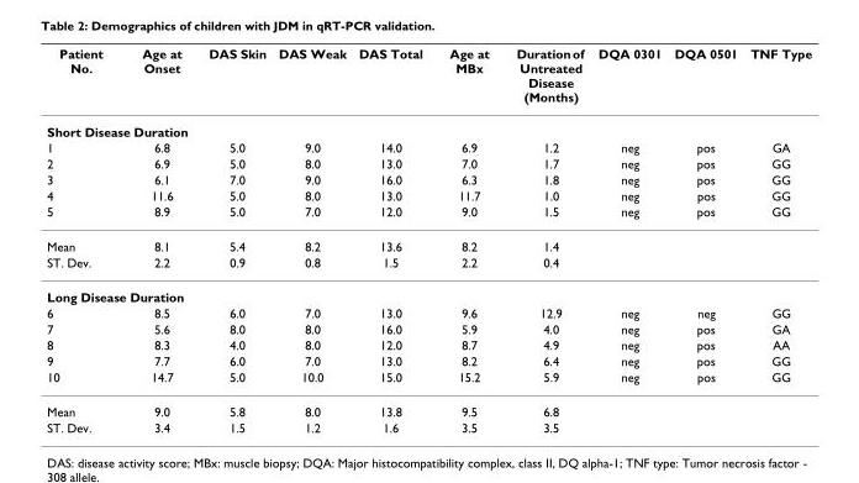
<table><thead><tr><td>Patient No.</td><td>Age at Onset</td><td>DAS Skin</td><td>DAS Weak</td><td>DAS Total</td><td>Age at MBx</td><td>Duration of Untreated Disease (Months)</td><td>DQA 0301</td><td>DQA 0501</td><td>TNF Type</td></tr></thead><tbody><tr><td colspan="10">Short Disease Duration</td></tr><tr><td>1</td><td>6.8</td><td>5.0</td><td>9.0</td><td>14.0</td><td>6.9</td><td>1.2</td><td>neg</td><td>pos</td><td>GA</td></tr><tr><td>2</td><td>6.9</td><td>5.0</td><td>8.0</td><td>13.0</td><td>7.0</td><td>1.7</td><td>neg</td><td>pos</td><td>GG</td></tr><tr><td>3</td><td>6.1</td><td>7.0</td><td>9.0</td><td>16.0</td><td>6.3</td><td>1.8</td><td>neg</td><td>pos</td><td>GG</td></tr><tr><td>4</td><td>11.6</td><td>5.0</td><td>8.0</td><td>13.0</td><td>11.7</td><td>1.0</td><td>neg</td><td>pos</td><td>GG</td></tr><tr><td>5</td><td>8.9</td><td>5.0</td><td>7.0</td><td>12.0</td><td>9.0</td><td>1.5</td><td>neg</td><td>pos</td><td>GG</td></tr><tr><td>Mean</td><td>8.1</td><td>5.4</td><td>8.2</td><td>13.6</td><td>8.2</td><td>1.4</td><td></td><td></td><td></td></tr><tr><td>ST. Dev.</td><td>2.2</td><td>0.9</td><td>0.8</td><td>1.5</td><td>2.2</td><td>0.4</td><td></td><td></td><td></td></tr><tr><td colspan="10">Long Disease Duration</td></tr><tr><td>6</td><td>8.5</td><td>6.0</td><td>7.0</td><td>13.0</td><td>9.6</td><td>12.9</td><td>neg</td><td>neg</td><td>GG</td></tr><tr><td>7</td><td>5.6</td><td>8.0</td><td>8.0</td><td>16.0</td><td>5.9</td><td>4.0</td><td>neg</td><td>pos</td><td>GA</td></tr><tr><td>8</td><td>8.3</td><td>4.0</td><td>8.0</td><td>12.0</td><td>8.7</td><td>4.9</td><td>neg</td><td>pos</td><td>AA</td></tr><tr><td>9</td><td>7.7</td><td>6.0</td><td>7.0</td><td>13.0</td><td>8.2</td><td>6.4</td><td>neg</td><td>pos</td><td>GG</td></tr><tr><td>10</td><td>14.7</td><td>5.0</td><td>10.0</td><td>15.0</td><td>15.2</td><td>5.9</td><td>neg</td><td>pos</td><td>GG</td></tr><tr><td>Mean</td><td>9.0</td><td>5.8</td><td>8.0</td><td>13.8</td><td>9.5</td><td>6.8</td><td></td><td></td><td></td></tr><tr><td>ST. Dev.</td><td>3.4</td><td>1.5</td><td>1.2</td><td>1.6</td><td>3.5</td><td>3.5</td><td></td><td></td><td></td></tr></tbody></table>